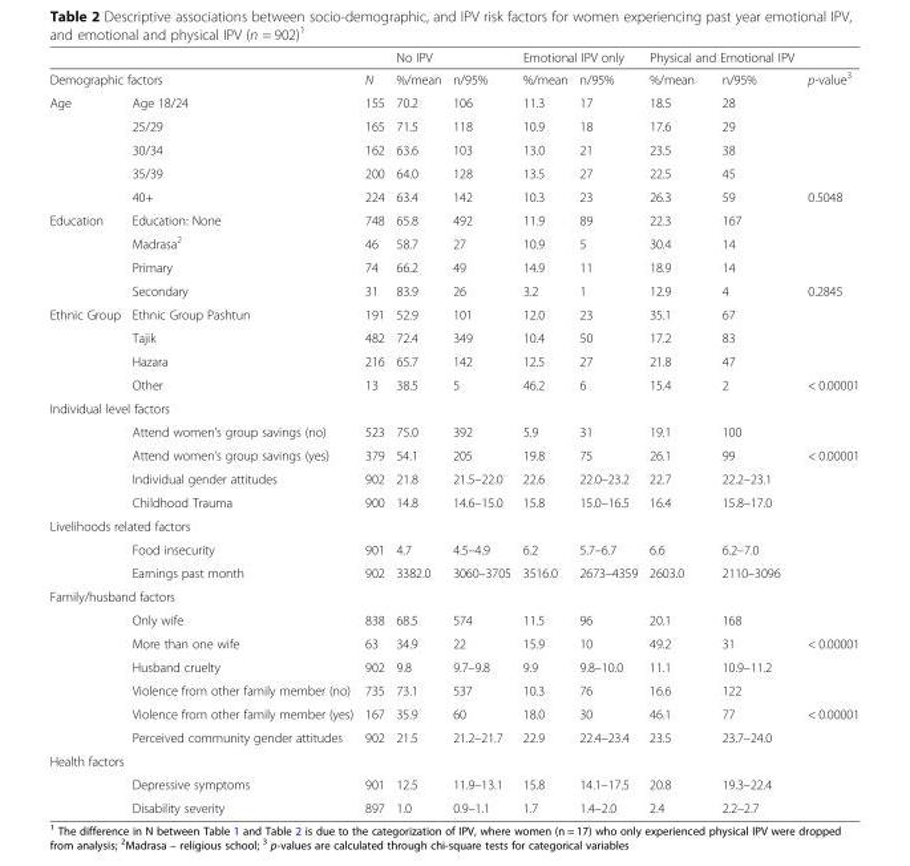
<table><thead><tr><td></td><td></td><td rowspan="2">N</td><td colspan="2">No IPV</td><td colspan="2">Emotional IPV only</td><td colspan="2">Physical and Emotional IPV</td><td rowspan="2">p-value<sup>3</sup></td></tr><tr><td colspan="2">Demographic factors</td><td>%/mean</td><td>n/95%</td><td>%/mean</td><td>n/95%</td><td>%/mean</td><td>n/95%</td></tr></thead><tbody><tr><td rowspan="5">Age</td><td>Age 18/24</td><td>155</td><td>70.2</td><td>106</td><td>11.3</td><td>17</td><td>18.5</td><td>28</td><td></td></tr><tr><td>25/29</td><td>165</td><td>71.5</td><td>118</td><td>10.9</td><td>18</td><td>17.6</td><td>29</td><td></td></tr><tr><td>30/34</td><td>162</td><td>63.6</td><td>103</td><td>13.0</td><td>21</td><td>23.5</td><td>38</td><td></td></tr><tr><td>35/39</td><td>200</td><td>64.0</td><td>128</td><td>13.5</td><td>27</td><td>22.5</td><td>45</td><td></td></tr><tr><td>40+</td><td>224</td><td>63.4</td><td>142</td><td>10.3</td><td>23</td><td>26.3</td><td>59</td><td>0.5048</td></tr><tr><td rowspan="4">Education</td><td>Education: None</td><td>748</td><td>65.8</td><td>492</td><td>11.9</td><td>89</td><td>22.3</td><td>167</td><td></td></tr><tr><td>Madrasa<sup>2</sup></td><td>46</td><td>58.7</td><td>27</td><td>10.9</td><td>5</td><td>30.4</td><td>14</td><td></td></tr><tr><td>Primary</td><td>74</td><td>66.2</td><td>49</td><td>14.9</td><td>11</td><td>18.9</td><td>14</td><td></td></tr><tr><td>Secondary</td><td>31</td><td>83.9</td><td>26</td><td>3.2</td><td>1</td><td>12.9</td><td>4</td><td>0.2845</td></tr><tr><td rowspan="4">Ethnic Group</td><td>Ethnic Group Pashtun</td><td>191</td><td>52.9</td><td>101</td><td>12.0</td><td>23</td><td>35.1</td><td>67</td><td></td></tr><tr><td>Tajik</td><td>482</td><td>72.4</td><td>349</td><td>10.4</td><td>50</td><td>17.2</td><td>83</td><td></td></tr><tr><td>Hazara</td><td>216</td><td>65.7</td><td>142</td><td>12.5</td><td>27</td><td>21.8</td><td>47</td><td></td></tr><tr><td>Other</td><td>13</td><td>38.5</td><td>5</td><td>46.2</td><td>6</td><td>15.4</td><td>2</td><td>&lt; 0.00001</td></tr><tr><td colspan="10">Individual level factors</td></tr><tr><td></td><td>Attend women’s group savings (no)</td><td>523</td><td>75.0</td><td>392</td><td>5.9</td><td>31</td><td>19.1</td><td>100</td><td></td></tr><tr><td></td><td>Attend women’s group savings (yes)</td><td>379</td><td>54.1</td><td>205</td><td>19.8</td><td>75</td><td>26.1</td><td>99</td><td>&lt; 0.00001</td></tr><tr><td></td><td>Individual gender attitudes</td><td>902</td><td>21.8</td><td>21.5–22.0</td><td>22.6</td><td>22.0–23.2</td><td>22.7</td><td>22.2–23.1</td><td></td></tr><tr><td></td><td>Childhood Trauma</td><td>900</td><td>14.8</td><td>14.6–15.0</td><td>15.8</td><td>15.0–16.5</td><td>16.4</td><td>15.8–17.0</td><td></td></tr><tr><td colspan="10">Livelihoods related factors</td></tr><tr><td></td><td>Food insecurity</td><td>901</td><td>4.7</td><td>4.5–4.9</td><td>6.2</td><td>5.7–6.7</td><td>6.6</td><td>6.2–7.0</td><td></td></tr><tr><td></td><td>Earnings past month</td><td>902</td><td>3382.0</td><td>3060–3705</td><td>3516.0</td><td>2673–4359</td><td>2603.0</td><td>2110–3096</td><td></td></tr><tr><td colspan="10">Family/husband factors</td></tr><tr><td></td><td>Only wife</td><td>838</td><td>68.5</td><td>574</td><td>11.5</td><td>96</td><td>20.1</td><td>168</td><td></td></tr><tr><td></td><td>More than one wife</td><td>63</td><td>34.9</td><td>22</td><td>15.9</td><td>10</td><td>49.2</td><td>31</td><td>&lt; 0.00001</td></tr><tr><td></td><td>Husband cruelty</td><td>902</td><td>9.8</td><td>9.7–9.8</td><td>9.9</td><td>9.8–10.0</td><td>11.1</td><td>10.9–11.2</td><td></td></tr><tr><td></td><td>Violence from other family member (no)</td><td>735</td><td>73.1</td><td>537</td><td>10.3</td><td>76</td><td>16.6</td><td>122</td><td></td></tr><tr><td></td><td>Violence from other family member (yes)</td><td>167</td><td>35.9</td><td>60</td><td>18.0</td><td>30</td><td>46.1</td><td>77</td><td>&lt; 0.00001</td></tr><tr><td></td><td>Perceived community gender attitudes</td><td>902</td><td>21.5</td><td>21.2–21.7</td><td>22.9</td><td>22.4–23.4</td><td>23.5</td><td>23.7–24.0</td><td></td></tr><tr><td colspan="10">Health factors</td></tr><tr><td></td><td>Depressive symptoms</td><td>901</td><td>12.5</td><td>11.9–13.1</td><td>15.8</td><td>14.1–17.5</td><td>20.8</td><td>19.3–22.4</td><td></td></tr><tr><td></td><td>Disability severity</td><td>897</td><td>1.0</td><td>0.9–1.1</td><td>1.7</td><td>1.4–2.0</td><td>2.4</td><td>2.2–2.7</td><td></td></tr></tbody></table>